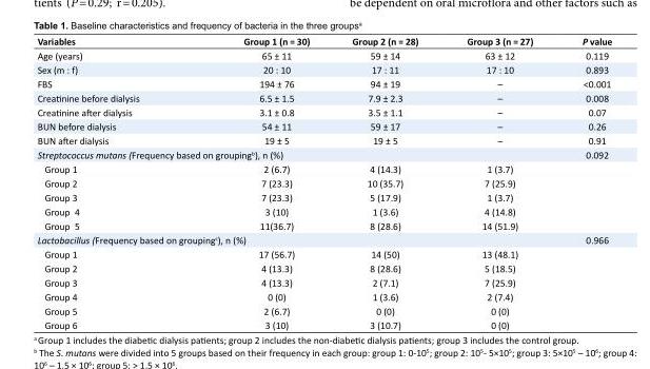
<table><tbody><tr><td>Variables</td><td>Group 1 (n = 30)</td><td>Group 2 (n = 28)</td><td>Group 3 (n = 27)</td><td>P value</td></tr><tr><td>Age (years)</td><td>65 ± 11</td><td>59 ± 14</td><td>63 ± 12</td><td>0.119</td></tr><tr><td>Sex (m : f)</td><td>20 : 10</td><td>17 : 11</td><td>17 : 10</td><td>0.893</td></tr><tr><td>FBS</td><td>194 ± 76</td><td>94 ± 19</td><td>–</td><td>&lt;0.001</td></tr><tr><td>Creatinine before dialysis</td><td>6.5 ± 1.5</td><td>7.9 ± 2.3</td><td>–</td><td>0.008</td></tr><tr><td>Creatinine after dialysis</td><td>3.1 ± 0.8</td><td>3.5 ± 1.1</td><td>–</td><td>0.07</td></tr><tr><td>BUN before dialysis</td><td>54 ± 11</td><td>59 ± 17</td><td>–</td><td>0.26</td></tr><tr><td>BUN after dialysis</td><td>19 ± 5</td><td>19 ± 5</td><td>–</td><td>0.91</td></tr><tr><td colspan="2">Streptococcus mutans (Frequency based on grouping<sup>b</sup>), n (%)</td><td></td><td></td><td>0.092</td></tr><tr><td>Group 1</td><td>2 (6.7)</td><td>4 (14.3)</td><td>1 (3.7)</td><td></td></tr><tr><td>Group 2</td><td>7 (23.3)</td><td>10 (35.7)</td><td>7 (25.9)</td><td></td></tr><tr><td>Group 3</td><td>7 (23.3)</td><td>5 (17.9)</td><td>1 (3.7)</td><td></td></tr><tr><td>Group 4</td><td>3 (10)</td><td>1 (3.6)</td><td>4 (14.8)</td><td></td></tr><tr><td>Group 5</td><td>11(36.7)</td><td>8 (28.6)</td><td>14 (51.9)</td><td></td></tr><tr><td colspan="2">Lactobacillus (Frequency based on grouping<sup>c</sup>), n (%)</td><td></td><td></td><td>0.966</td></tr><tr><td>Group 1</td><td>17 (56.7)</td><td>14 (50)</td><td>13 (48.1)</td><td></td></tr><tr><td>Group 2</td><td>4 (13.3)</td><td>8 (28.6)</td><td>5 (18.5)</td><td></td></tr><tr><td>Group 3</td><td>4 (13.3)</td><td>2 (7.1)</td><td>7 (25.9)</td><td></td></tr><tr><td>Group 4</td><td>0 (0)</td><td>1 (3.6)</td><td>2 (7.4)</td><td></td></tr><tr><td>Group 5</td><td>2 (6.7)</td><td>0 (0)</td><td>0 (0)</td><td></td></tr><tr><td>Group 6</td><td>3 (10)</td><td>3 (10.7)</td><td>0 (0)</td><td></td></tr></tbody></table>